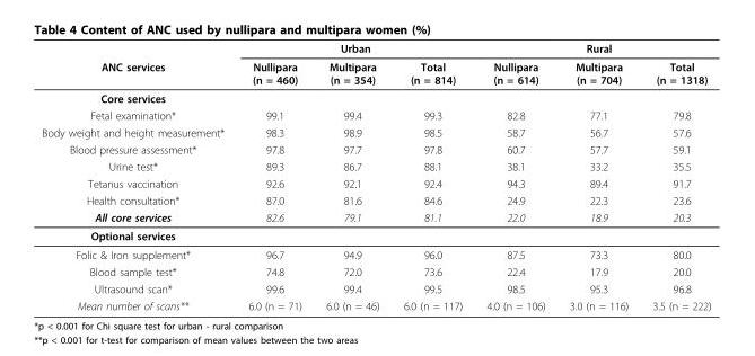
<table><thead><tr><td rowspan="2">ANC services</td><td colspan="3">Urban</td><td colspan="3">Rural</td></tr><tr><td>Nullipara (n = 460)</td><td>Multipara (n = 354)</td><td>Total (n = 814)</td><td>Nullipara (n = 614)</td><td>Multipara (n = 704)</td><td>Total (n = 1318)</td></tr></thead><tbody><tr><td colspan="7">Core services</td></tr><tr><td>Fetal examination*</td><td>99.1</td><td>99.4</td><td>99.3</td><td>82.8</td><td>77.1</td><td>79.8</td></tr><tr><td>Body weight and height measurement*</td><td>98.3</td><td>98.9</td><td>98.5</td><td>58.7</td><td>56.7</td><td>57.6</td></tr><tr><td>Blood pressure assessment*</td><td>97.8</td><td>97.7</td><td>97.8</td><td>60.7</td><td>57.7</td><td>59.1</td></tr><tr><td>Urine test*</td><td>89.3</td><td>86.7</td><td>88.1</td><td>38.1</td><td>33.2</td><td>35.5</td></tr><tr><td>Tetanus vaccination</td><td>92.6</td><td>92.1</td><td>92.4</td><td>94.3</td><td>89.4</td><td>91.7</td></tr><tr><td>Health consultation*</td><td>87.0</td><td>81.6</td><td>84.6</td><td>24.9</td><td>22.3</td><td>23.6</td></tr><tr><td>All core services</td><td>82.6</td><td>79.1</td><td>81.1</td><td>22.0</td><td>18.9</td><td>20.3</td></tr><tr><td colspan="7">Optional services</td></tr><tr><td>Folic &amp; Iron supplement*</td><td>96.7</td><td>94.9</td><td>96.0</td><td>87.5</td><td>73.3</td><td>80.0</td></tr><tr><td>Blood sample test*</td><td>74.8</td><td>72.0</td><td>73.6</td><td>22.4</td><td>17.9</td><td>20.0</td></tr><tr><td>Ultrasound scan*</td><td>99.6</td><td>99.4</td><td>99.5</td><td>98.5</td><td>95.3</td><td>96.8</td></tr><tr><td>Mean number of scans**</td><td>6.0 (n = 71)</td><td>6.0 (n = 46)</td><td>6.0 (n = 117)</td><td>4.0 (n = 106)</td><td>3.0 (n = 116)</td><td>3.5 (n = 222)</td></tr></tbody></table>